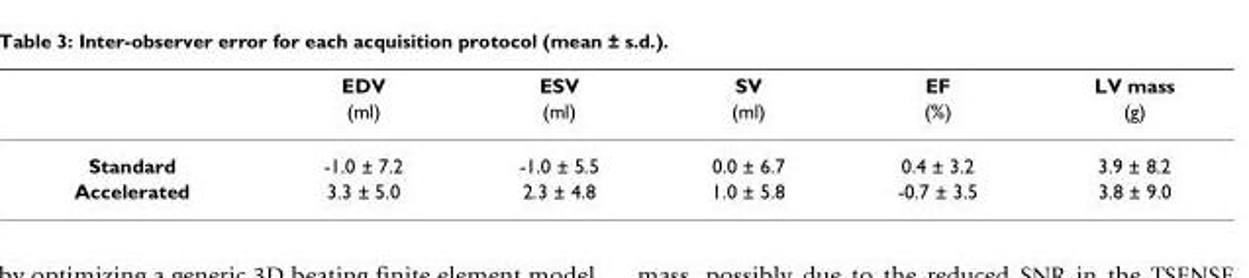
<table><thead><tr><td rowspan="2"></td><td rowspan="2">EDV (ml)</td><td rowspan="2">ESV (ml)</td><td rowspan="2">SV (ml)</td><td rowspan="2">EF (%)</td><td rowspan="2">LV mass (g)</td></tr><tr></tr></thead><tbody><tr><td>Standard</td><td>-1.0 ± 7.2</td><td>-1.0 ± 5.5</td><td>0.0 ± 6.7</td><td>0.4 ± 3.2</td><td>3.9 ± 8.2</td></tr><tr><td>Accelerated</td><td>3.3 ± 5.0</td><td>2.3 ± 4.8</td><td>1.0 ± 5.8</td><td>-0.7 ± 3.5</td><td>3.8 ± 9.0</td></tr></tbody></table>